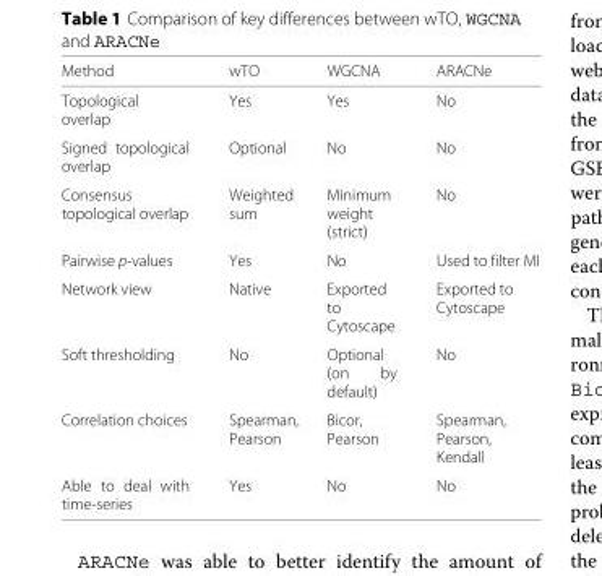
<table><thead><tr><td>Method</td><td>wTO</td><td>WGCNA</td><td>ARACNe</td></tr></thead><tbody><tr><td>Topological overlap</td><td>Yes</td><td>Yes</td><td>No</td></tr><tr><td>Signed topological overlap</td><td>Optional</td><td>No</td><td>No</td></tr><tr><td>Consensus topological overlap</td><td>Weighted sum</td><td>Minimum weight (strict)</td><td>No</td></tr><tr><td>Pairwise p-values</td><td>Yes</td><td>No</td><td>Used to filter MI</td></tr><tr><td>Network view</td><td>Native</td><td>Exported to Cytoscape</td><td>Exported to Cytoscape</td></tr><tr><td>Soft thresholding</td><td>No</td><td>Optional (on by default)</td><td>No</td></tr><tr><td>Correlation choices</td><td>Spearman, Pearson</td><td>Bicor, Pearson</td><td>Spearman, Pearson, Kendall</td></tr><tr><td>Able to deal with time-series</td><td>Yes</td><td>No</td><td>No</td></tr></tbody></table>